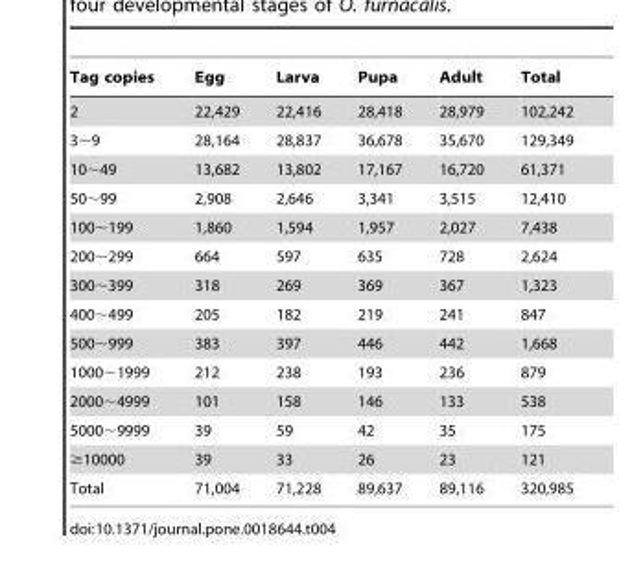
<table><thead><tr><td>Tag copies</td><td>Egg</td><td>Larva</td><td>Pupa</td><td>Adult</td><td>Total</td></tr></thead><tbody><tr><td>2</td><td>22,429</td><td>22,416</td><td>28,418</td><td>28,979</td><td>102,242</td></tr><tr><td>3∼9</td><td>28,164</td><td>28,837</td><td>36,678</td><td>35,670</td><td>129,349</td></tr><tr><td>10∼49</td><td>13,682</td><td>13,802</td><td>17,167</td><td>16,720</td><td>61,371</td></tr><tr><td>50∼99</td><td>2,908</td><td>2,646</td><td>3,341</td><td>3,515</td><td>12,410</td></tr><tr><td>100∼199</td><td>1,860</td><td>1,594</td><td>1,957</td><td>2,027</td><td>7,438</td></tr><tr><td>200∼299</td><td>664</td><td>597</td><td>635</td><td>728</td><td>2,624</td></tr><tr><td>300∼399</td><td>318</td><td>269</td><td>369</td><td>367</td><td>1,323</td></tr><tr><td>400∼499</td><td>205</td><td>182</td><td>219</td><td>241</td><td>847</td></tr><tr><td>500∼999</td><td>383</td><td>397</td><td>446</td><td>442</td><td>1,668</td></tr><tr><td>1000∼1999</td><td>212</td><td>238</td><td>193</td><td>236</td><td>879</td></tr><tr><td>2000∼4999</td><td>101</td><td>158</td><td>146</td><td>133</td><td>538</td></tr><tr><td>5000∼9999</td><td>39</td><td>59</td><td>42</td><td>35</td><td>175</td></tr><tr><td>≥10000</td><td>39</td><td>33</td><td>26</td><td>23</td><td>121</td></tr><tr><td>Total</td><td>71,004</td><td>71,228</td><td>89,637</td><td>89,116</td><td>320,985</td></tr></tbody></table>